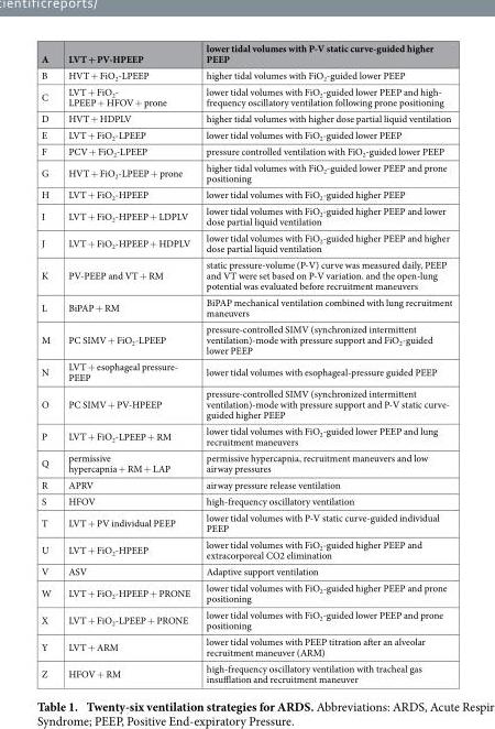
<table><thead><tr><td>A</td><td>LVT + PV-HPEEP</td><td>lower tidal volumes with P-V static curve-guided higher PEEP</td></tr></thead><tbody><tr><td>B</td><td>HVT + FiO<sub>2</sub>-LPEEP</td><td>higher tidal volumes with FiO<sub>2</sub>-guided lower PEEP</td></tr><tr><td>C</td><td>LVT + FiO<sub>2</sub>- LPEEP + HFOV + prone</td><td>lower tidal volumes with FiO<sub>2</sub>-guided lower PEEP and high- frequency oscillatory ventilation following prone positioning</td></tr><tr><td>D</td><td>HVT + HDPLV</td><td>higher tidal volumes with higher dose partial liquid ventilation</td></tr><tr><td>E</td><td>LVT + FiO<sub>2</sub>-LPEEP</td><td>lower tidal volumes with FiO<sub>2</sub>-guided lower PEEP</td></tr><tr><td>F</td><td>PCV + FiO<sub>2</sub>-LPEEP</td><td>pressure controlled ventilation with FiO<sub>2</sub>-guided lower PEEP</td></tr><tr><td>G</td><td>HVT + FiO<sub>2</sub>-LPEEP + prone</td><td>higher tidal volumes with FiO<sub>2</sub>-guided lower PEEP and prone positioning</td></tr><tr><td>H</td><td>LVT + FiO<sub>2</sub>-HPEEP</td><td>lower tidal volumes with FiO<sub>2</sub>-guided higher PEEP</td></tr><tr><td>I</td><td>LVT + FiO<sub>2</sub>-HPEEP + LDPLV</td><td>lower tidal volumes with FiO<sub>2</sub>-guided higher PEEP and lower dose partial liquid ventilation</td></tr><tr><td>J</td><td>LVT + FiO<sub>2</sub>-HPEEP + HDPLV</td><td>lower tidal volumes with FiO<sub>2</sub>-guided higher PEEP and higher dose partial liquid ventilation</td></tr><tr><td>K</td><td>PV-PEEP and VT + RM</td><td>static pressure-volume (P-V) curve was measured daily, PEEP and VT were set based on P-V variation. and the open-lung potential was evaluated before recruitment maneuvers</td></tr><tr><td>L</td><td>BiPAP + RM</td><td>BiPAP mechanical ventilation combined with lung recruitment maneuvers</td></tr><tr><td>M</td><td>PC SIMV + FiO<sub>2</sub>-LPEEP</td><td>pressure-controlled SIMV (synchronized intermittent ventilation)-mode with pressure support and FiO<sub>2</sub>-guided lower PEEP</td></tr><tr><td>N</td><td>LVT + esophageal pressure- PEEP</td><td>lower tidal volumes with esophageal-pressure guided PEEP</td></tr><tr><td>O</td><td>PC SIMV + PV-HPEEP</td><td>pressure-controlled SIMV (synchronized intermittent ventilation)-mode with pressure support and P-V static curve- guided higher PEEP</td></tr><tr><td>P</td><td>LVT + FiO<sub>2</sub>-LPEEP + RM</td><td>lower tidal volumes with FiO<sub>2</sub>-guided lower PEEP and lung recruitment maneuvers</td></tr><tr><td>Q</td><td>permissive hypercapnia + RM + LAP</td><td>permissive hypercapnia, recruitment maneuvers and low airway pressures</td></tr><tr><td>R</td><td>APRV</td><td>airway pressure release ventilation</td></tr><tr><td>S</td><td>HFOV</td><td>high-frequency oscillatory ventilation</td></tr><tr><td>T</td><td>LVT + PV individual PEEP</td><td>lower tidal volumes with P-V static curve-guided individual PEEP</td></tr><tr><td>U</td><td>LVT + FiO<sub>2</sub>-HPEEP</td><td>lower tidal volumes with FiO<sub>2</sub>-guided higher PEEP and extracorporeal CO2 elimination</td></tr><tr><td>V</td><td>ASV</td><td>Adaptive support ventilation</td></tr><tr><td>W</td><td>LVT + FiO<sub>2</sub>-HPEEP + PRONE</td><td>lower tidal volumes with FiO<sub>2</sub>-guided higher PEEP and prone positioning</td></tr><tr><td>X</td><td>LVT + FiO<sub>2</sub>-LPEEP + PRONE</td><td>lower tidal volumes with FiO<sub>2</sub>-guided lower PEEP and prone positioning</td></tr><tr><td>Y</td><td>LVT + ARM</td><td>lower tidal volumes with PEEP titration after an alveolar recruitment maneuver (ARM)</td></tr><tr><td>Z</td><td>HFOV + RM</td><td>high-frequency oscillatory ventilation with tracheal gas insufflation and recruitment maneuver</td></tr></tbody></table>